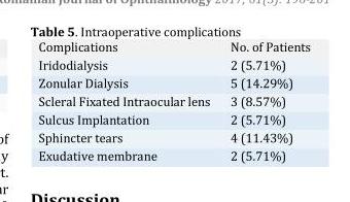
<table><tbody><tr><td>Complications</td><td>No. of Patients</td></tr><tr><td>Iridodialysis</td><td>2 (5.71%)</td></tr><tr><td>Zonular Dialysis</td><td>5 (14.29%)</td></tr><tr><td>Scleral Fixated Intraocular lens</td><td>3 (8.57%)</td></tr><tr><td>Sulcus Implantation</td><td>2 (5.71%)</td></tr><tr><td>Sphincter tears</td><td>4 (11.43%)</td></tr><tr><td>Exudative membrane</td><td>2 (5.71%)</td></tr></tbody></table>